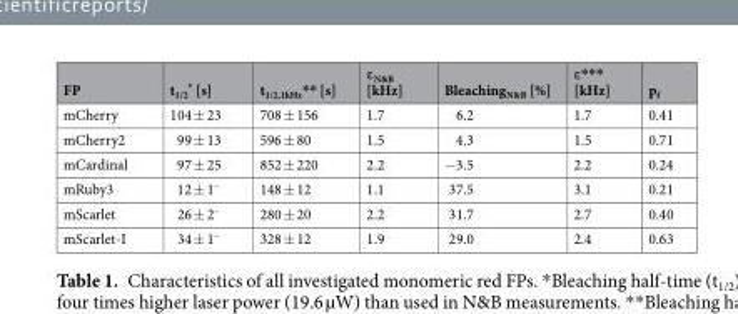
<table><thead><tr><td>FP</td><td>t<sub>1/2</sub> * [s]</td><td>t<sub>1/2,1kHz</sub>** [s]</td><td>ε<sub>N&amp;B</sub> [kHz]</td><td>Bleaching<sub>N&amp;B</sub> [%]</td><td>ε*** [kHz]</td><td>p<sub>f</sub></td></tr></thead><tbody><tr><td>mCherry</td><td>104 ± 23</td><td>708 ± 156</td><td>1.7</td><td>6.2</td><td>1.7</td><td>0.41</td></tr><tr><td>mCherry2</td><td>99 ± 13</td><td>596 ± 80</td><td>1.5</td><td>4.3</td><td>1.5</td><td>0.71</td></tr><tr><td>mCardinal</td><td>97 ± 25</td><td>852 ± 220</td><td>2.2</td><td>−3.5</td><td>2.2</td><td>0.24</td></tr><tr><td>mRuby3</td><td>12 ± 1<sup>~</sup></td><td>148 ± 12</td><td>1.1</td><td>37.5</td><td>3.1</td><td>0.21</td></tr><tr><td>mScarlet</td><td>26 ± 2<sup>~</sup></td><td>280 ± 20</td><td>2.2</td><td>31.7</td><td>2.7</td><td>0.40</td></tr><tr><td>mScarlet-I</td><td>34 ± 1<sup>~</sup></td><td>328 ± 12</td><td>1.9</td><td>29.0</td><td>2.4</td><td>0.63</td></tr></tbody></table>